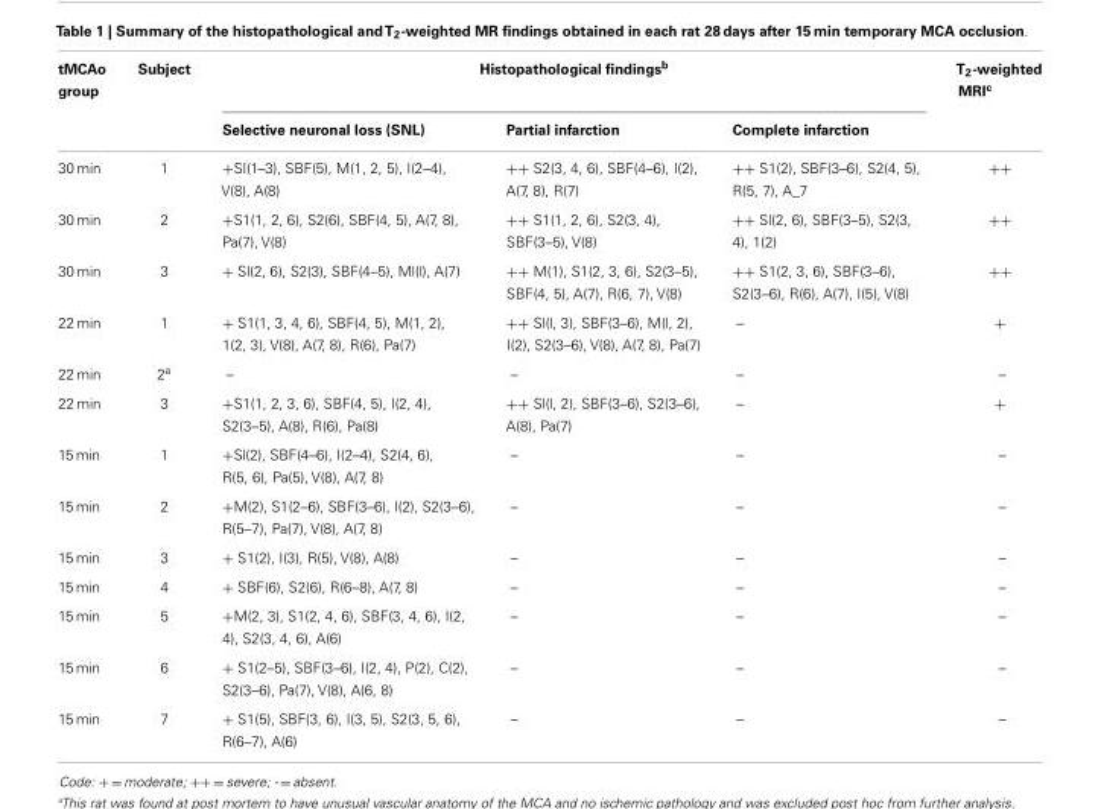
<table><thead><tr><td rowspan="2">tMCAo group</td><td rowspan="2">Subject</td><td colspan="3">Histopathological findings<sup>b</sup></td><td rowspan="2">T<sub>2</sub>-weighted MRI<sup>c</sup></td></tr><tr><td>Selective neuronal loss (SNL)</td><td>Partial infarction</td><td>Complete infarction</td></tr></thead><tbody><tr><td>30 min</td><td>1</td><td>+SI(1–3), SBF(5), M(1, 2, 5), I(2–4), V(8), A(8)</td><td>++ S2(3, 4, 6), SBF(4–6), I(2), A(7, 8), R(7)</td><td>++ S1(2), SBF(3–6), S2(4, 5), R(5, 7), A_7</td><td>++</td></tr><tr><td>30 min</td><td>2</td><td>+S1(1, 2, 6), S2(6), SBF(4, 5), A(7, 8), Pa(7), V(8)</td><td>++ S1(1, 2, 6), S2(3, 4), SBF(3–5), V(8)</td><td>++ Sl(2, 6), SBF(3–5), S2(3, 4), 1(2)</td><td>++</td></tr><tr><td>30 min</td><td>3</td><td>+ Sl(2, 6), S2(3), SBF(4–5), Ml(l), A(7)</td><td>++ M(1), S1(2, 3, 6), S2(3–5), SBF(4, 5), A(7), R(6, 7), V(8)</td><td>++ S1(2, 3, 6), SBF(3–6), S2(3–6), R(6), A(7), I(5), V(8)</td><td>++</td></tr><tr><td>22 min</td><td>1</td><td>+ S1(1, 3, 4, 6), SBF(4, 5), M(1, 2), 1(2, 3), V(8), A(7, 8), R(6), Pa(7)</td><td>++ Sl(l, 3), SBF(3–6), M(l, 2), I(2), S2(3–6), V(8), A(7, 8), Pa(7)</td><td>–</td><td>+</td></tr><tr><td>22 min</td><td>2<sup>a</sup></td><td>–</td><td>–</td><td>–</td><td>–</td></tr><tr><td>22 min</td><td>3</td><td>+S1(1, 2, 3, 6), SBF(4, 5), I(2, 4), S2(3–5), A(8), R(6), Pa(8)</td><td>++ Sl(l, 2), SBF(3–6), S2(3–6), A(8), Pa(7)</td><td>–</td><td>+</td></tr><tr><td>15 min</td><td>1</td><td>+Sl(2), SBF(4–6), I(2–4), S2(4, 6), R(5, 6), Pa(5), V(8), A(7, 8)</td><td>–</td><td>–</td><td>–</td></tr><tr><td>15 min</td><td>2</td><td>+M(2), S1(2–6), SBF(3–6), I(2), S2(3–6), R(5–7), Pa(7), V(8), A(7, 8)</td><td>–</td><td>–</td><td>–</td></tr><tr><td>15 min</td><td>3</td><td>+ S1(2), I(3), R(5), V(8), A(8)</td><td>–</td><td>–</td><td>–</td></tr><tr><td>15 min</td><td>4</td><td>+ SBF(6), S2(6), R(6–8), A(7, 8)</td><td>–</td><td>–</td><td>–</td></tr><tr><td>15 min</td><td>5</td><td>+M(2, 3), S1(2, 4, 6), SBF(3, 4, 6), I(2, 4), S2(3, 4, 6), A(6)</td><td>–</td><td>–</td><td>–</td></tr><tr><td>15 min</td><td>6</td><td>+ S1(2–5), SBF(3–6), I(2, 4), P(2), C(2), S2(3–6), Pa(7), V(8), A(6, 8)</td><td>–</td><td>–</td><td>–</td></tr><tr><td>15 min</td><td>7</td><td>+ S1(5), SBF(3, 6), I(3, 5), S2(3, 5, 6), R(6–7), A(6)</td><td>–</td><td>–</td><td>–</td></tr></tbody></table>